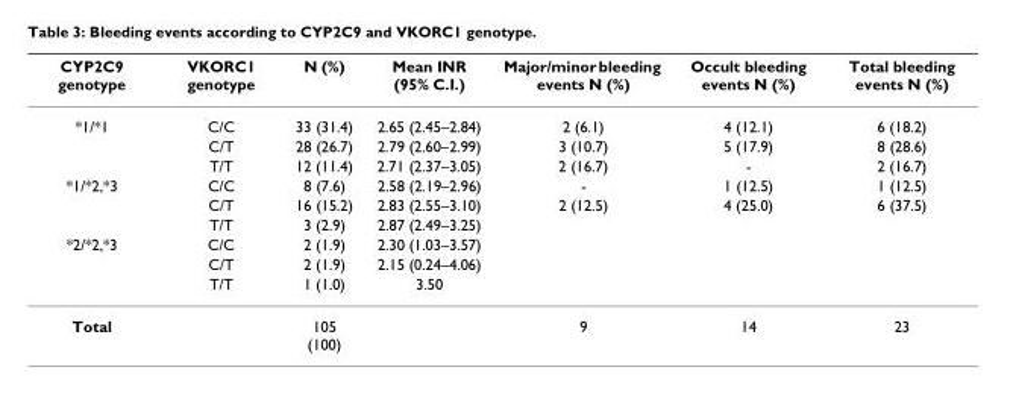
<table><thead><tr><td>CYP2C9 genotype</td><td>VKORC1 genotype</td><td>N (%)</td><td>Mean INR (95% C.I.)</td><td>Major/minor bleeding events N (%)</td><td>Occult bleeding events N (%)</td><td>Total bleeding events N (%)</td></tr></thead><tbody><tr><td rowspan="3">*1/*1</td><td>C/C</td><td>33 (31.4)</td><td>2.65 (2.45–2.84)</td><td>2 (6.1)</td><td>4 (12.1)</td><td>6 (18.2)</td></tr><tr><td>C/T</td><td>28 (26.7)</td><td>2.79 (2.60–2.99)</td><td>3 (10.7)</td><td>5 (17.9)</td><td>8 (28.6)</td></tr><tr><td>T/T</td><td>12 (11.4)</td><td>2.71 (2.37–3.05)</td><td>2 (16.7)</td><td>-</td><td>2 (16.7)</td></tr><tr><td rowspan="3">*1/*2,*3</td><td>C/C</td><td>8 (7.6)</td><td>2.58 (2.19–2.96)</td><td>-</td><td>1 (12.5)</td><td>1 (12.5)</td></tr><tr><td>C/T</td><td>16 (15.2)</td><td>2.83 (2.55–3.10)</td><td>2 (12.5)</td><td>4 (25.0)</td><td>6 (37.5)</td></tr><tr><td>T/T</td><td>3 (2.9)</td><td>2.87 (2.49–3.25)</td><td></td><td></td><td></td></tr><tr><td rowspan="3">*2/*2,*3</td><td>C/C</td><td>2 (1.9)</td><td>2.30 (1.03–3.57)</td><td></td><td></td><td></td></tr><tr><td>C/T</td><td>2 (1.9)</td><td>2.15 (0.24–4.06)</td><td></td><td></td><td></td></tr><tr><td>T/T</td><td>1 (1.0)</td><td>3.50</td><td></td><td></td><td></td></tr><tr><td>Total</td><td></td><td>105 (100)</td><td></td><td>9</td><td>14</td><td>23</td></tr></tbody></table>